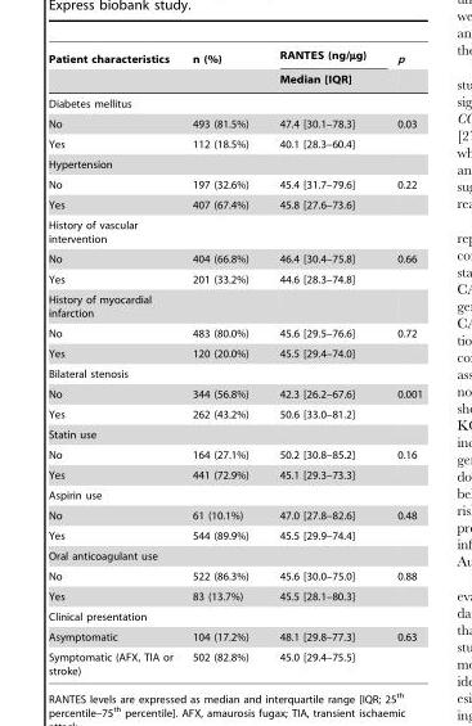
<table><thead><tr><td rowspan="2">Patient characteristics</td><td rowspan="2">n (%)</td><td rowspan="2">RANTES (ng/µg) Median [IQR]</td><td rowspan="2">p</td></tr><tr></tr></thead><tbody><tr><td colspan="4">Diabetes mellitus</td></tr><tr><td>No</td><td>493 (81.5%)</td><td>47.4 [30.1–78.3]</td><td>0.03</td></tr><tr><td>Yes</td><td>112 (18.5%)</td><td>40.1 [28.3–60.4]</td><td></td></tr><tr><td colspan="4">Hypertension</td></tr><tr><td>No</td><td>197 (32.6%)</td><td>45.4 [31.7–79.6]</td><td>0.22</td></tr><tr><td>Yes</td><td>407 (67.4%)</td><td>45.8 [27.6–73.6]</td><td></td></tr><tr><td colspan="4">History of vascular intervention</td></tr><tr><td>No</td><td>404 (66.8%)</td><td>46.4 [30.4–75.8]</td><td>0.66</td></tr><tr><td>Yes</td><td>201 (33.2%)</td><td>44.6 [28.3–74.8]</td><td></td></tr><tr><td colspan="4">History of myocardial infarction</td></tr><tr><td>No</td><td>483 (80.0%)</td><td>45.6 [29.5–76.6]</td><td>0.72</td></tr><tr><td>Yes</td><td>120 (20.0%)</td><td>45.5 [29.4–74.0]</td><td></td></tr><tr><td colspan="4">Bilateral stenosis</td></tr><tr><td>No</td><td>344 (56.8%)</td><td>42.3 [26.2–67.6]</td><td>0.001</td></tr><tr><td>Yes</td><td>262 (43.2%)</td><td>50.6 [33.0–81.2]</td><td></td></tr><tr><td colspan="4">Statin use</td></tr><tr><td>No</td><td>164 (27.1%)</td><td>50.2 [30.8–85.2]</td><td>0.16</td></tr><tr><td>Yes</td><td>441 (72.9%)</td><td>45.1 [29.3–73.3]</td><td></td></tr><tr><td colspan="4">Aspirin use</td></tr><tr><td>No</td><td>61 (10.1%)</td><td>47.0 [27.8–82.6]</td><td>0.48</td></tr><tr><td>Yes</td><td>544 (89.9%)</td><td>45.5 [29.9–74.4]</td><td></td></tr><tr><td colspan="4">Oral anticoagulant use</td></tr><tr><td>No</td><td>522 (86.3%)</td><td>45.6 [30.0–75.0]</td><td>0.88</td></tr><tr><td>Yes</td><td>83 (13.7%)</td><td>45.5 [28.1–80.3]</td><td></td></tr><tr><td colspan="4">Clinical presentation</td></tr><tr><td>Asymptomatic</td><td>104 (17.2%)</td><td>48.1 [29.8–77.3]</td><td>0.63</td></tr><tr><td>Symptomatic (AFX, TIA or stroke)</td><td>502 (82.8%)</td><td>45.0 [29.4–75.5]</td><td></td></tr></tbody></table>